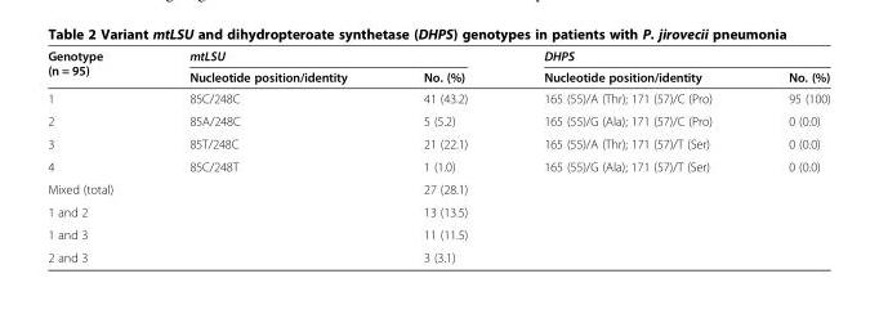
<table><thead><tr><td rowspan="2">Genotype (n = 95)</td><td colspan="2">mtLSU</td><td colspan="2">DHPS</td></tr><tr><td>Nucleotide position/identity</td><td>No. (%)</td><td>Nucleotide position/identity</td><td>No. (%)</td></tr></thead><tbody><tr><td>1</td><td>85C/248C</td><td>41 (43.2)</td><td>165 (55)/A (Thr); 171 (57)/C (Pro)</td><td>95 (100)</td></tr><tr><td>2</td><td>85A/248C</td><td>5 (5.2)</td><td>165 (55)/G (Ala); 171 (57)/C (Pro)</td><td>0 (0.0)</td></tr><tr><td>3</td><td>85T/248C</td><td>21 (22.1)</td><td>165 (55)/A (Thr); 171 (57)/T (Ser)</td><td>0 (0.0)</td></tr><tr><td>4</td><td>85C/248T</td><td>1 (1.0)</td><td>165 (55)/G (Ala); 171 (57)/T (Ser)</td><td>0 (0.0)</td></tr><tr><td>Mixed (total)</td><td></td><td>27 (28.1)</td><td></td><td></td></tr><tr><td>1 and 2</td><td></td><td>13 (13.5)</td><td></td><td></td></tr><tr><td>1 and 3</td><td></td><td>11 (11.5)</td><td></td><td></td></tr><tr><td>2 and 3</td><td></td><td>3 (3.1)</td><td></td><td></td></tr></tbody></table>